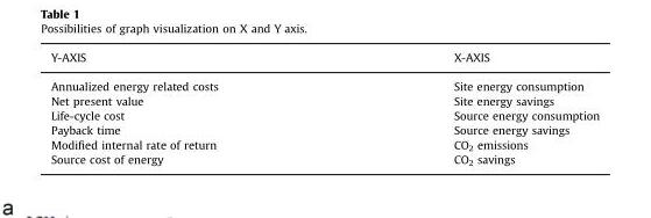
<table><thead><tr><td>Y-AXIS</td><td>X-AXIS</td></tr></thead><tbody><tr><td>Annualized energy related costs</td><td>Site energy consumption</td></tr><tr><td>Net present value</td><td>Site energy savings</td></tr><tr><td>Life-cycle cost</td><td>Source energy consumption</td></tr><tr><td>Payback time</td><td>Source energy savings</td></tr><tr><td>Modified internal rate of return</td><td>CO<sub>2</sub> emissions</td></tr><tr><td>Source cost of energy</td><td>CO<sub>2</sub> savings</td></tr></tbody></table>